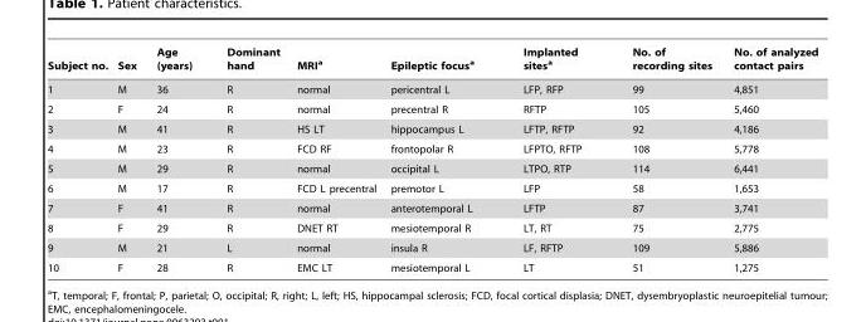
<table><thead><tr><td>Subject no.</td><td>Sex</td><td>Age (years)</td><td>Dominant hand</td><td>MRI<sup>a</sup></td><td>Epileptic focus<sup>a</sup></td><td>Implanted sites<sup>a</sup></td><td>No. of recording sites</td><td>No. of analyzed contact pairs</td></tr></thead><tbody><tr><td>1</td><td>M</td><td>36</td><td>R</td><td>normal</td><td>pericentral L</td><td>LFP, RFP</td><td>99</td><td>4,851</td></tr><tr><td>2</td><td>F</td><td>24</td><td>R</td><td>normal</td><td>precentral R</td><td>RFTP</td><td>105</td><td>5,460</td></tr><tr><td>3</td><td>M</td><td>41</td><td>R</td><td>HS LT</td><td>hippocampus L</td><td>LFTP, RFTP</td><td>92</td><td>4,186</td></tr><tr><td>4</td><td>M</td><td>23</td><td>R</td><td>FCD RF</td><td>frontopolar R</td><td>LFPTO, RFTP</td><td>108</td><td>5,778</td></tr><tr><td>5</td><td>M</td><td>29</td><td>R</td><td>normal</td><td>occipital L</td><td>LTPO, RTP</td><td>114</td><td>6,441</td></tr><tr><td>6</td><td>M</td><td>17</td><td>R</td><td>FCD L precentral</td><td>premotor L</td><td>LFP</td><td>58</td><td>1,653</td></tr><tr><td>7</td><td>F</td><td>41</td><td>R</td><td>normal</td><td>anterotemporal L</td><td>LFTP</td><td>87</td><td>3,741</td></tr><tr><td>8</td><td>F</td><td>29</td><td>R</td><td>DNET RT</td><td>mesiotemporal R</td><td>LT, RT</td><td>75</td><td>2,775</td></tr><tr><td>9</td><td>M</td><td>21</td><td>L</td><td>normal</td><td>insula R</td><td>LF, RFTP</td><td>109</td><td>5,886</td></tr><tr><td>10</td><td>F</td><td>28</td><td>R</td><td>EMC LT</td><td>mesiotemporal L</td><td>LT</td><td>51</td><td>1,275</td></tr></tbody></table>